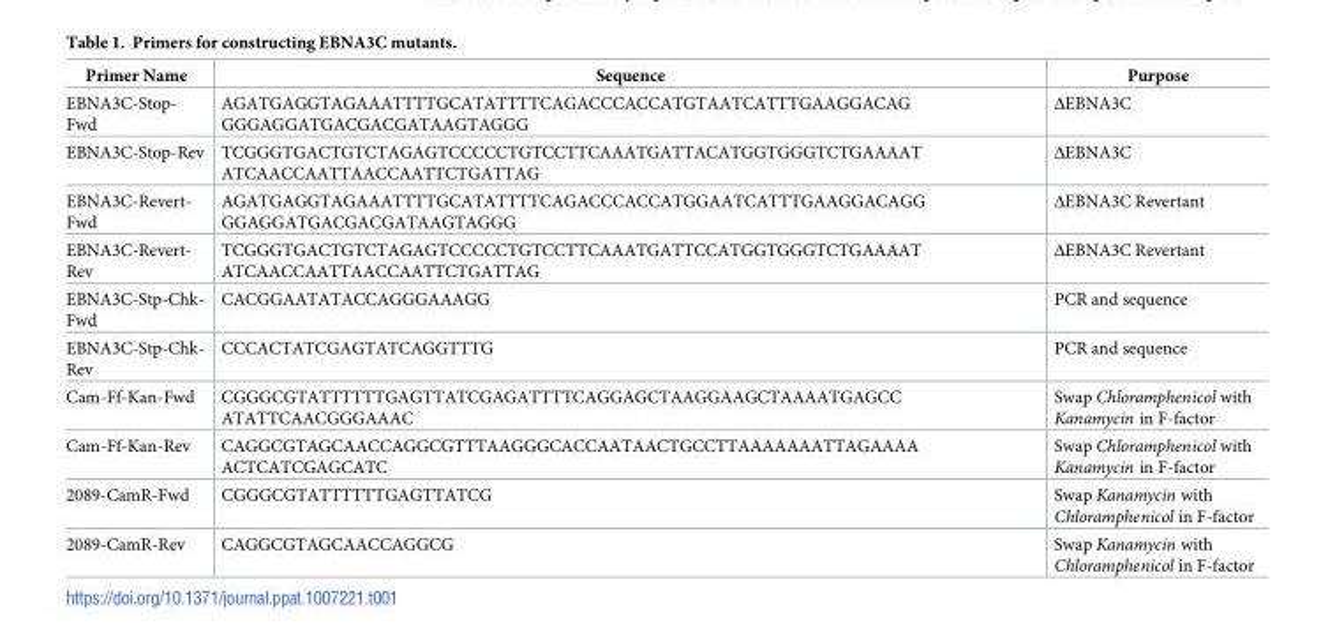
<table><thead><tr><td>Primer Name</td><td>Sequence</td><td>Purpose</td></tr></thead><tbody><tr><td>EBNA3C-Stop- Fwd</td><td>AGATGAGGTAGAAATTTTGCATATTTTCAGACCCACCATGTAATCATTTGAAGGACAG GGGAGGATGACGACGATAAGTAGGG</td><td>ΔEBNA3C</td></tr><tr><td>EBNA3C-Stop-Rev</td><td>TCGGGTGACTGTCTAGAGTCCCCCTGTCCTTCAAATGATTACATGGTGGGTCTGAAAAT ATCAACCAATTAACCAATTCTGATTAG</td><td>ΔEBNA3C</td></tr><tr><td>EBNA3C-Revert- Fwd</td><td>AGATGAGGTAGAAATTTTGCATATTTTCAGACCCACCATGGAATCATTTGAAGGACAGG GGAGGATGACGACGATAAGTAGGG</td><td>ΔEBNA3C Revertant</td></tr><tr><td>EBNA3C-Revert- Rev</td><td>TCGGGTGACTGTCTAGAGTCCCCCTGTCCTTCAAATGATTCCATGGTGGGTCTGAAAAT ATCAACCAATTAACCAATTCTGATTAG</td><td>ΔEBNA3C Revertant</td></tr><tr><td>EBNA3C-Stp-Chk- Fwd</td><td>CACGGAATATACCAGGGAAAGG</td><td>PCR and sequence</td></tr><tr><td>EBNA3C-Stp-Chk- Rev</td><td>CCCACTATCGAGTATCAGGTTTG</td><td>PCR and sequence</td></tr><tr><td>Cam-Ff-Kan-Fwd</td><td>CGGGCGTATTTTTTGAGTTATCGAGATTTTCAGGAGCTAAGGAAGCTAAAATGAGCC ATATTCAACGGGAAAC</td><td>Swap Chloramphenicol with Kanamycin in F-factor</td></tr><tr><td>Cam-Ff-Kan-Rev</td><td>CAGGCGTAGCAACCAGGCGTTTAAGGGCACCAATAACTGCCTTAAAAAAATTAGAAAA ACTCATCGAGCATC</td><td>Swap Chloramphenicol with Kanamycin in F-factor</td></tr><tr><td>2089-CamR-Fwd</td><td>CGGGCGTATTTTTTGAGTTATCG</td><td>Swap Kanamycin with Chloramphenicol in F-factor</td></tr><tr><td>2089-CamR-Rev</td><td>CAGGCGTAGCAACCAGGCG</td><td>Swap Kanamycin with Chloramphenicol in F-factor</td></tr></tbody></table>